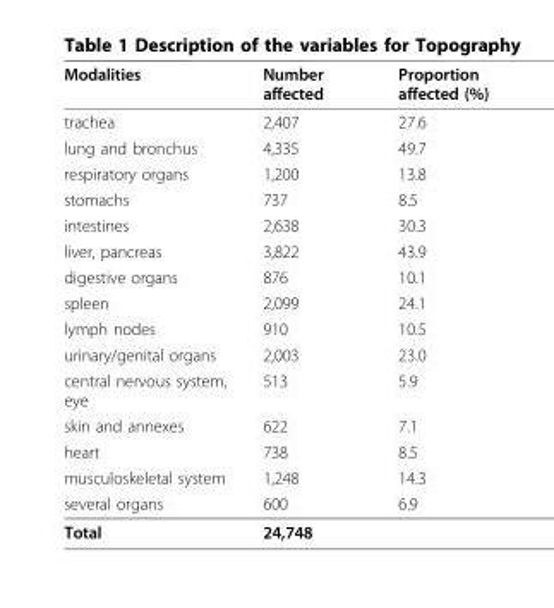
<table><thead><tr><td>Modalities</td><td>Number affected</td><td>Proportion affected (%)</td></tr></thead><tbody><tr><td>trachea</td><td>2,407</td><td>27.6</td></tr><tr><td>lung and bronchus</td><td>4,335</td><td>49.7</td></tr><tr><td>respiratory organs</td><td>1,200</td><td>13.8</td></tr><tr><td>stomachs</td><td>737</td><td>8.5</td></tr><tr><td>intestines</td><td>2,638</td><td>30.3</td></tr><tr><td>liver, pancreas</td><td>3,822</td><td>43.9</td></tr><tr><td>digestive organs</td><td>876</td><td>10.1</td></tr><tr><td>spleen</td><td>2,099</td><td>24.1</td></tr><tr><td>lymph nodes</td><td>910</td><td>10.5</td></tr><tr><td>urinary/genital organs</td><td>2,003</td><td>23.0</td></tr><tr><td>central nervous system, eye</td><td>513</td><td>5.9</td></tr><tr><td>skin and annexes</td><td>622</td><td>7.1</td></tr><tr><td>heart</td><td>738</td><td>8.5</td></tr><tr><td>musculoskeletal system</td><td>1,248</td><td>14.3</td></tr><tr><td>several organs</td><td>600</td><td>6.9</td></tr><tr><td>Total</td><td>24,748</td><td></td></tr></tbody></table>